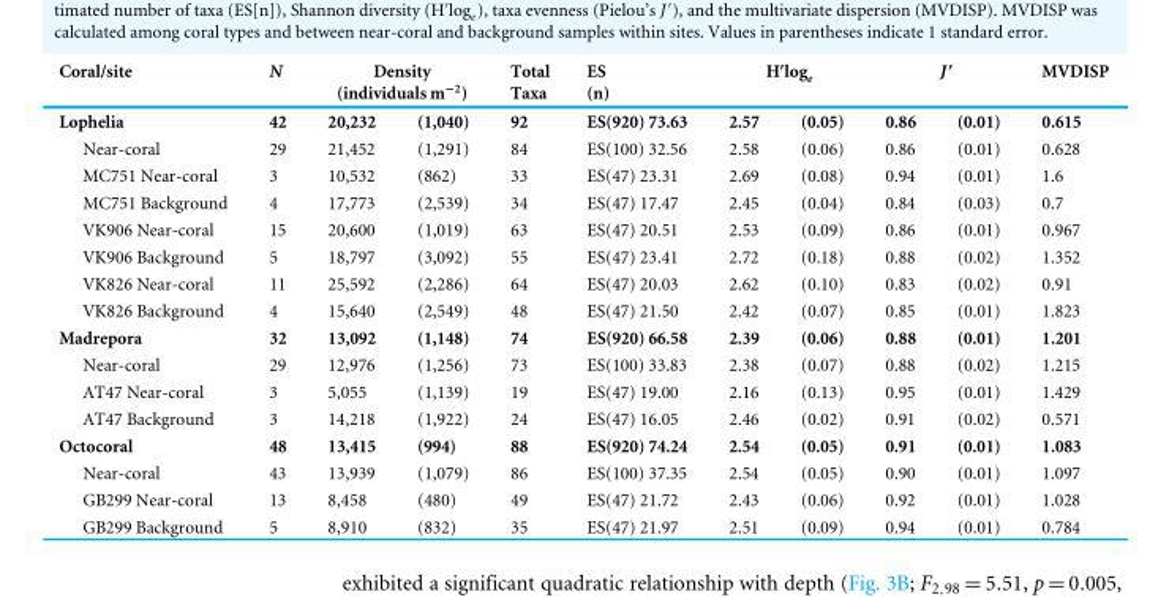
<table><thead><tr><td rowspan="2">Coral/site Lophelia</td><td rowspan="2">N 42</td><td colspan="2">Density (individuals m<sup>−2</sup>)</td><td rowspan="2">Total Taxa 92</td><td rowspan="2">ES (n) ES(920) 73.63</td><td colspan="2">H′log<sub>e</sub></td><td colspan="2">J ′</td><td rowspan="2">MVDISP 0.615</td></tr><tr><td>20,232</td><td>(1,040)</td><td>2.57</td><td>(0.05)</td><td>0.86</td><td>(0.01)</td></tr></thead><tbody><tr><td>Near-coral</td><td>29</td><td>21,452</td><td>(1,291)</td><td>84</td><td>ES(100) 32.56</td><td>2.58</td><td>(0.06)</td><td>0.86</td><td>(0.01)</td><td>0.628</td></tr><tr><td>MC751 Near-coral</td><td>3</td><td>10,532</td><td>(862)</td><td>33</td><td>ES(47) 23.31</td><td>2.69</td><td>(0.08)</td><td>0.94</td><td>(0.01)</td><td>1.6</td></tr><tr><td>MC751 Background</td><td>4</td><td>17,773</td><td>(2,539)</td><td>34</td><td>ES(47) 17.47</td><td>2.45</td><td>(0.04)</td><td>0.84</td><td>(0.03)</td><td>0.7</td></tr><tr><td>VK906 Near-coral</td><td>15</td><td>20,600</td><td>(1,019)</td><td>63</td><td>ES(47) 20.51</td><td>2.53</td><td>(0.09)</td><td>0.86</td><td>(0.01)</td><td>0.967</td></tr><tr><td>VK906 Background</td><td>5</td><td>18,797</td><td>(3,092)</td><td>55</td><td>ES(47) 23.41</td><td>2.72</td><td>(0.18)</td><td>0.88</td><td>(0.02)</td><td>1.352</td></tr><tr><td>VK826 Near-coral</td><td>11</td><td>25,592</td><td>(2,286)</td><td>64</td><td>ES(47) 20.03</td><td>2.62</td><td>(0.10)</td><td>0.83</td><td>(0.02)</td><td>0.91</td></tr><tr><td>VK826 Background</td><td>4</td><td>15,640</td><td>(2,549)</td><td>48</td><td>ES(47) 21.50</td><td>2.42</td><td>(0.07)</td><td>0.85</td><td>(0.01)</td><td>1.823</td></tr><tr><td>Madrepora</td><td>32</td><td>13,092</td><td>(1,148)</td><td>74</td><td>ES(920) 66.58</td><td>2.39</td><td>(0.06)</td><td>0.88</td><td>(0.01)</td><td>1.201</td></tr><tr><td>Near-coral</td><td>29</td><td>12,976</td><td>(1,256)</td><td>73</td><td>ES(100) 33.83</td><td>2.38</td><td>(0.07)</td><td>0.88</td><td>(0.02)</td><td>1.215</td></tr><tr><td>AT47 Near-coral</td><td>3</td><td>5,055</td><td>(1,139)</td><td>19</td><td>ES(47) 19.00</td><td>2.16</td><td>(0.13)</td><td>0.95</td><td>(0.01)</td><td>1.429</td></tr><tr><td>AT47 Background</td><td>3</td><td>14,218</td><td>(1,922)</td><td>24</td><td>ES(47) 16.05</td><td>2.46</td><td>(0.02)</td><td>0.91</td><td>(0.02)</td><td>0.571</td></tr><tr><td>Octocoral</td><td>48</td><td>13,415</td><td>(994)</td><td>88</td><td>ES(920) 74.24</td><td>2.54</td><td>(0.05)</td><td>0.91</td><td>(0.01)</td><td>1.083</td></tr><tr><td>Near-coral</td><td>43</td><td>13,939</td><td>(1,079)</td><td>86</td><td>ES(100) 37.35</td><td>2.54</td><td>(0.05)</td><td>0.90</td><td>(0.01)</td><td>1.097</td></tr><tr><td>GB299 Near-coral</td><td>13</td><td>8,458</td><td>(480)</td><td>49</td><td>ES(47) 21.72</td><td>2.43</td><td>(0.06)</td><td>0.92</td><td>(0.01)</td><td>1.028</td></tr><tr><td>GB299 Background</td><td>5</td><td>8,910</td><td>(832)</td><td>35</td><td>ES(47) 21.97</td><td>2.51</td><td>(0.09)</td><td>0.94</td><td>(0.01)</td><td>0.784</td></tr></tbody></table>